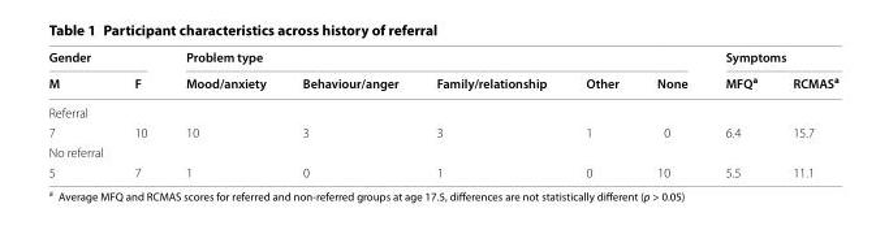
<table><thead><tr><td colspan="2">Gender</td><td colspan="5">Problem type</td><td colspan="2">Symptoms</td></tr><tr><td>M</td><td>F</td><td>Mood/anxiety</td><td>Behaviour/anger</td><td>Family/relationship</td><td>Other</td><td>None</td><td>MFQ<sup>a</sup></td><td>RCMAS<sup>a</sup></td></tr></thead><tbody><tr><td colspan="9">Referral</td></tr><tr><td>7</td><td>10</td><td>10</td><td>3</td><td>3</td><td>1</td><td>0</td><td>6.4</td><td>15.7</td></tr><tr><td colspan="9">No referral</td></tr><tr><td>5</td><td>7</td><td>1</td><td>0</td><td>1</td><td>0</td><td>10</td><td>5.5</td><td>11.1</td></tr></tbody></table>